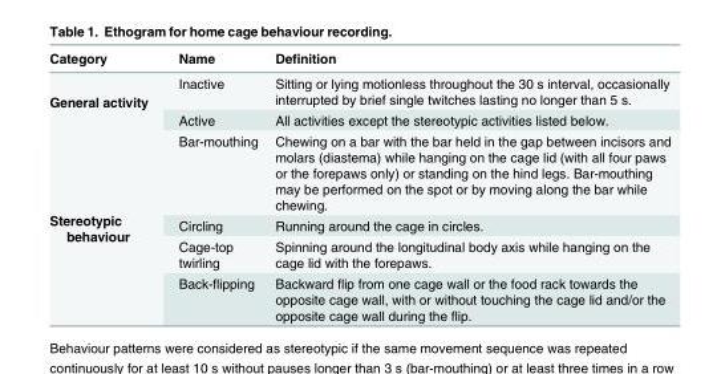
<table><thead><tr><td>Category</td><td>Name</td><td>Definition</td></tr></thead><tbody><tr><td rowspan="2">General activity</td><td>Inactive</td><td>Sitting or lying motionless throughout the 30 s interval, occasionally interrupted by brief single twitches lasting no longer than 5 s.</td></tr><tr><td>Active</td><td>All activities except the stereotypic activities listed below.</td></tr><tr><td rowspan="4">Stereotypic behaviour</td><td>Bar-mouthing</td><td>Chewing on a bar with the bar held in the gap between incisors and molars (diastema) while hanging on the cage lid (with all four paws or the forepaws only) or standing on the hind legs. Bar-mouthing may be performed on the spot or by moving along the bar while chewing.</td></tr><tr><td>Circling</td><td>Running around the cage in circles.</td></tr><tr><td>Cage-top twirling</td><td>Spinning around the longitudinal body axis while hanging on the cage lid with the forepaws.</td></tr><tr><td>Back-flipping</td><td>Backward flip from one cage wall or the food rack towards the opposite cage wall, with or without touching the cage lid and/or the opposite cage wall during the flip.</td></tr></tbody></table>